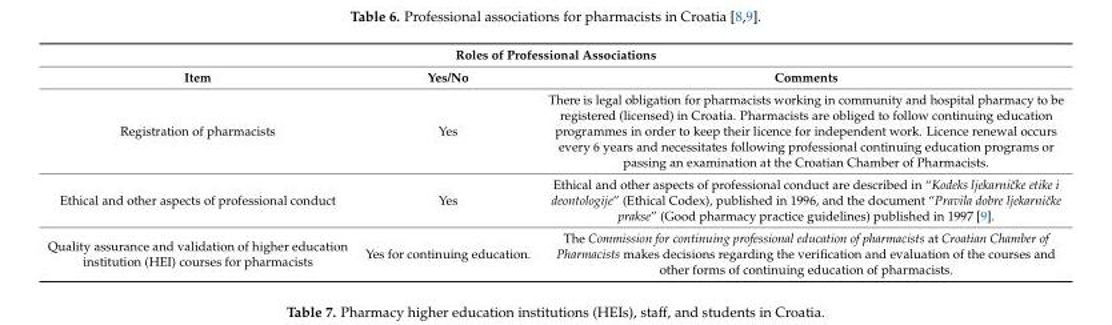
<table><thead><tr><td colspan="3">Roles of Professional Associations</td></tr><tr><td>Item</td><td>Yes/No</td><td>Comments</td></tr></thead><tbody><tr><td>Registration of pharmacists</td><td>Yes</td><td>There is legal obligation for pharmacists working in community and hospital pharmacy to be registered (licensed) in Croatia. Pharmacists are obliged to follow continuing education programmes in order to keep their licence for independent work. Licence renewal occurs every 6 years and necessitates following professional continuing education programs or passing an examination at the Croatian Chamber of Pharmacists.</td></tr><tr><td>Ethical and other aspects of professional conduct</td><td>Yes</td><td>Ethical and other aspects of professional conduct are described in “Kodeks ljekarniˇcke etike i deontologije” (Ethical Codex), published in 1996, and the document “Pravila dobre ljekarniˇcke prakse” (Good pharmacy practice guidelines) published in 1997 [9].</td></tr><tr><td>Quality assurance and validation of higher education institution (HEI) courses for pharmacists</td><td>Yes for continuing education.</td><td>The Commission for continuing professional education of pharmacists at Croatian Chamber of Pharmacists makes decisions regarding the verification and evaluation of the courses and other forms of continuing education of pharmacists.</td></tr></tbody></table>